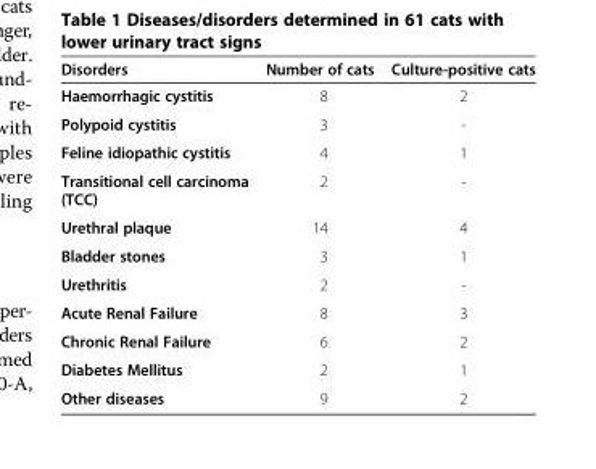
<table><thead><tr><td>Disorders</td><td>Number of cats</td><td>Culture-positive cats</td></tr></thead><tbody><tr><td>Haemorrhagic cystitis</td><td>8</td><td>2</td></tr><tr><td>Polypoid cystitis</td><td>3</td><td>-</td></tr><tr><td>Feline idiopathic cystitis</td><td>4</td><td>1</td></tr><tr><td>Transitional cell carcinoma (TCC)</td><td>2</td><td>-</td></tr><tr><td>Urethral plaque</td><td>14</td><td>4</td></tr><tr><td>Bladder stones</td><td>3</td><td>1</td></tr><tr><td>Urethritis</td><td>2</td><td>-</td></tr><tr><td>Acute Renal Failure</td><td>8</td><td>3</td></tr><tr><td>Chronic Renal Failure</td><td>6</td><td>2</td></tr><tr><td>Diabetes Mellitus</td><td>2</td><td>1</td></tr><tr><td>Other diseases</td><td>9</td><td>2</td></tr></tbody></table>